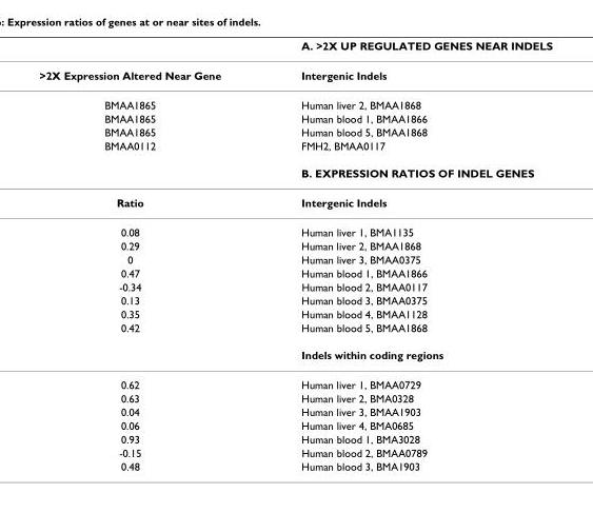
<table><thead><tr><td></td><td>A. &gt;2X UP REGULATED GENES NEAR INDELS</td></tr></thead><tbody><tr><td>&gt;2X Expression Altered Near Gene</td><td>Intergenic Indels</td></tr><tr><td>BMAA1865</td><td>Human liver 2, BMAA1868</td></tr><tr><td>BMAA1865</td><td>Human blood 1, BMAA1866</td></tr><tr><td>BMAA1865</td><td>Human blood 5, BMAA1868</td></tr><tr><td rowspan="2">BMAA0112</td><td>FMH2, BMAA0117</td></tr><tr><td>B. EXPRESSION RATIOS OF INDEL GENES</td></tr><tr><td>Ratio</td><td>Intergenic Indels</td></tr><tr><td>0.08</td><td>Human liver 1, BMA1135</td></tr><tr><td>0.29</td><td>Human liver 2, BMAA1868</td></tr><tr><td>0</td><td>Human liver 3, BMAA0375</td></tr><tr><td>0.47</td><td>Human blood 1, BMAA1866</td></tr><tr><td>-0.34</td><td>Human blood 2, BMAA0117</td></tr><tr><td>0.13</td><td>Human blood 3, BMAA0375</td></tr><tr><td>0.35</td><td>Human blood 4, BMAA1128</td></tr><tr><td rowspan="2">0.42</td><td>Human blood 5, BMAA1868</td></tr><tr><td>Indels within coding regions</td></tr><tr><td>0.62</td><td>Human liver 1, BMAA0729</td></tr><tr><td>0.63</td><td>Human liver 2, BMA0328</td></tr><tr><td>0.04</td><td>Human liver 3, BMAA1903</td></tr><tr><td>0.06</td><td>Human liver 4, BMA0685</td></tr><tr><td>0.93</td><td>Human blood 1, BMA3028</td></tr><tr><td>-0.15</td><td>Human blood 2, BMAA0789</td></tr><tr><td>0.48</td><td>Human blood 3, BMA1903</td></tr></tbody></table>